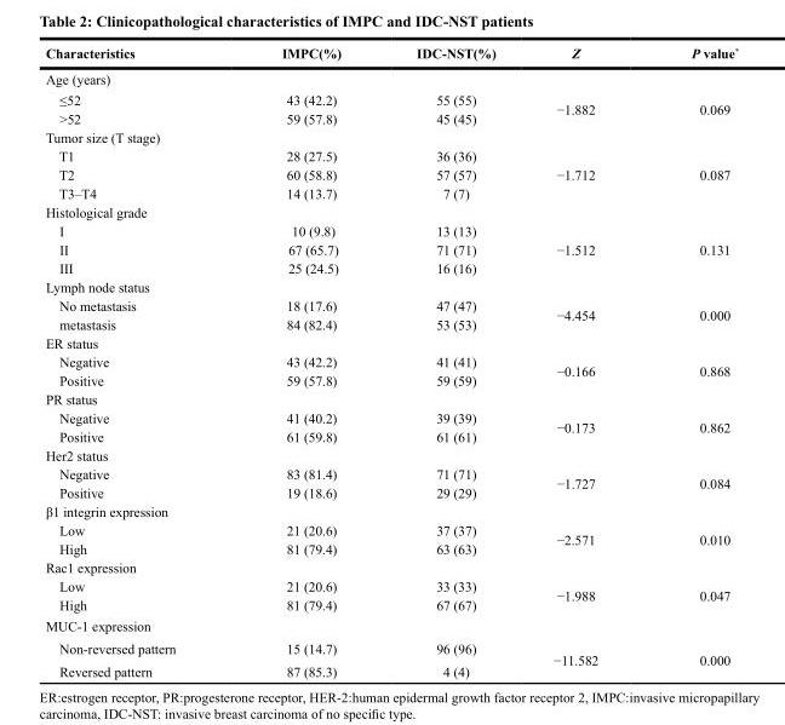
<table><thead><tr><td>Characteristics</td><td>IMPC(%)</td><td>IDC-NST(%)</td><td>Z</td><td>P value*</td></tr></thead><tbody><tr><td colspan="5">Age (years)</td></tr><tr><td>≤52</td><td>43 (42.2)</td><td>55 (55)</td><td rowspan="2">−1.882</td><td rowspan="2">0.069</td></tr><tr><td>﹥52</td><td>59 (57.8)</td><td>45 (45)</td></tr><tr><td colspan="5">Tumor size (T stage)</td></tr><tr><td>T1</td><td>28 (27.5)</td><td>36 (36)</td><td rowspan="3">−1.712</td><td rowspan="3">0.087</td></tr><tr><td>T2</td><td>60 (58.8)</td><td>57 (57)</td></tr><tr><td>T3–T4</td><td>14 (13.7)</td><td>7 (7)</td></tr><tr><td colspan="5">Histological grade</td></tr><tr><td>I</td><td>10 (9.8)</td><td>13 (13)</td><td rowspan="3">−1.512</td><td rowspan="3">0.131</td></tr><tr><td>II</td><td>67 (65.7)</td><td>71 (71)</td></tr><tr><td>III</td><td>25 (24.5)</td><td>16 (16)</td></tr><tr><td colspan="5">Lymph node status</td></tr><tr><td>No metastasis</td><td>18 (17.6)</td><td>47 (47)</td><td rowspan="2">−4.454</td><td rowspan="2">0.000</td></tr><tr><td>metastasis</td><td>84 (82.4)</td><td>53 (53)</td></tr><tr><td colspan="5">ER status</td></tr><tr><td>Negative</td><td>43 (42.2)</td><td>41 (41)</td><td rowspan="2">−0.166</td><td rowspan="2">0.868</td></tr><tr><td>Positive</td><td>59 (57.8)</td><td>59 (59)</td></tr><tr><td colspan="5">PR status</td></tr><tr><td>Negative</td><td>41 (40.2)</td><td>39 (39)</td><td rowspan="2">−0.173</td><td rowspan="2">0.862</td></tr><tr><td>Positive</td><td>61 (59.8)</td><td>61 (61)</td></tr><tr><td colspan="5">Her2 status</td></tr><tr><td>Negative</td><td>83 (81.4)</td><td>71 (71)</td><td rowspan="2">−1.727</td><td rowspan="2">0.084</td></tr><tr><td>Positive</td><td>19 (18.6)</td><td>29 (29)</td></tr><tr><td colspan="5">β1 integrin expression</td></tr><tr><td>Low</td><td>21 (20.6)</td><td>37 (37)</td><td rowspan="2">−2.571</td><td rowspan="2">0.010</td></tr><tr><td>High</td><td>81 (79.4)</td><td>63 (63)</td></tr><tr><td colspan="5">Rac1 expression</td></tr><tr><td>Low</td><td>21 (20.6)</td><td>33 (33)</td><td rowspan="2">−1.988</td><td rowspan="2">0.047</td></tr><tr><td>High</td><td>81 (79.4)</td><td>67 (67)</td></tr><tr><td colspan="5">MUC-1 expression</td></tr><tr><td>Non-reversed pattern</td><td>15 (14.7)</td><td>96 (96)</td><td rowspan="2">−11.582</td><td rowspan="2">0.000</td></tr><tr><td>Reversed pattern</td><td>87 (85.3)</td><td>4 (4)</td></tr></tbody></table>